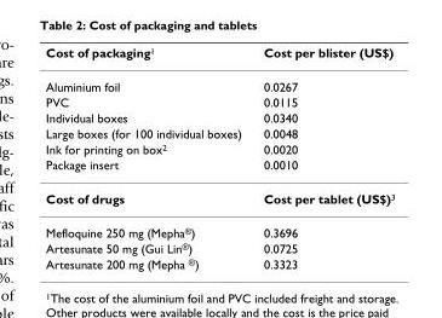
<table><thead><tr><td>Cost of packaging<sup>1</sup></td><td>Cost per blister (US$)</td></tr></thead><tbody><tr><td>Aluminium foil</td><td>0.0267</td></tr><tr><td>PVC</td><td>0.0115</td></tr><tr><td>Individual boxes</td><td>0.0340</td></tr><tr><td>Large boxes (for 100 individual boxes)</td><td>0.0048</td></tr><tr><td>Ink for printing on box<sup>2</sup></td><td>0.0020</td></tr><tr><td>Package insert</td><td>0.0010</td></tr><tr><td>Cost of drugs</td><td>Cost per tablet (US$)<sup>3</sup></td></tr><tr><td>Mefloquine 250 mg (Mepha<sup>®</sup>)</td><td>0.3696</td></tr><tr><td>Artesunate 50 mg (Gui Lin<sup>®</sup>)</td><td>0.0725</td></tr><tr><td>Artesunate 200 mg (Mepha <sup>®</sup>)</td><td>0.3323</td></tr></tbody></table>